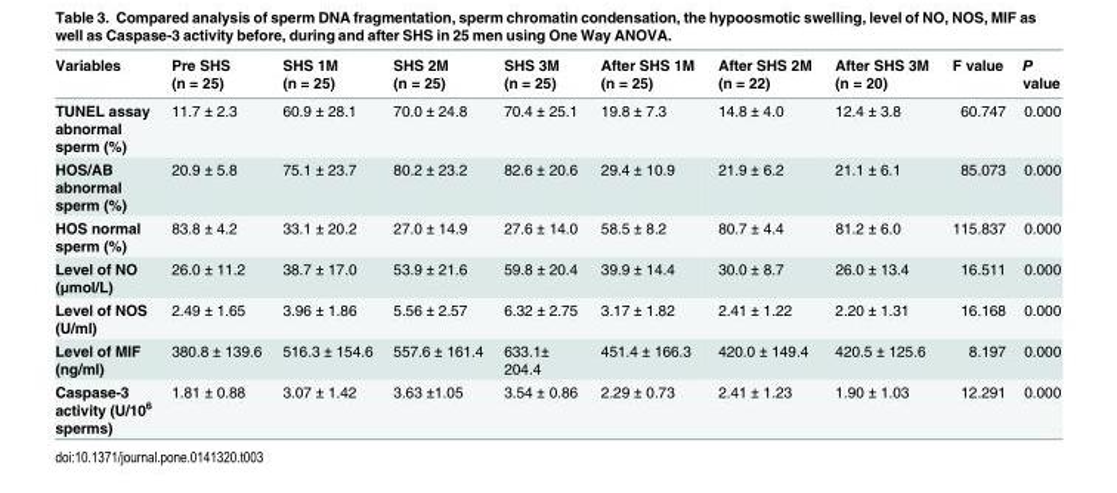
<table><thead><tr><td>Variables</td><td>Pre SHS (n = 25)</td><td>SHS 1M (n = 25)</td><td>SHS 2M (n = 25)</td><td>SHS 3M (n = 25)</td><td>After SHS 1M (n = 25)</td><td>After SHS 2M (n = 22)</td><td>After SHS 3M (n = 20)</td><td>F value</td><td>P value</td></tr></thead><tbody><tr><td>TUNEL assay abnormal sperm (%)</td><td>11.7 ± 2.3</td><td>60.9 ± 28.1</td><td>70.0 ± 24.8</td><td>70.4 ± 25.1</td><td>19.8 ± 7.3</td><td>14.8 ± 4.0</td><td>12.4 ± 3.8</td><td>60.747</td><td>0.000</td></tr><tr><td>HOS/AB abnormal sperm (%)</td><td>20.9 ± 5.8</td><td>75.1 ± 23.7</td><td>80.2 ± 23.2</td><td>82.6 ± 20.6</td><td>29.4 ± 10.9</td><td>21.9 ± 6.2</td><td>21.1 ± 6.1</td><td>85.073</td><td>0.000</td></tr><tr><td>HOS normal sperm (%)</td><td>83.8 ± 4.2</td><td>33.1 ± 20.2</td><td>27.0 ± 14.9</td><td>27.6 ± 14.0</td><td>58.5 ± 8.2</td><td>80.7 ± 4.4</td><td>81.2 ± 6.0</td><td>115.837</td><td>0.000</td></tr><tr><td>Level of NO (μmol/L)</td><td>26.0 ± 11.2</td><td>38.7 ± 17.0</td><td>53.9 ± 21.6</td><td>59.8 ± 20.4</td><td>39.9 ± 14.4</td><td>30.0 ± 8.7</td><td>26.0 ± 13.4</td><td>16.511</td><td>0.000</td></tr><tr><td>Level of NOS (U/ml)</td><td>2.49 ± 1.65</td><td>3.96 ± 1.86</td><td>5.56 ± 2.57</td><td>6.32 ± 2.75</td><td>3.17 ± 1.82</td><td>2.41 ± 1.22</td><td>2.20 ± 1.31</td><td>16.168</td><td>0.000</td></tr><tr><td>Level of MIF (ng/ml)</td><td>380.8 ± 139.6</td><td>516.3 ± 154.6</td><td>557.6 ± 161.4</td><td>633.1± 204.4</td><td>451.4 ± 166.3</td><td>420.0 ± 149.4</td><td>420.5 ± 125.6</td><td>8.197</td><td>0.000</td></tr><tr><td>Caspase-3 activity (U/10<sup>6</sup> sperms)</td><td>1.81 ± 0.88</td><td>3.07 ± 1.42</td><td>3.63 ±1.05</td><td>3.54 ± 0.86</td><td>2.29 ± 0.73</td><td>2.41 ± 1.23</td><td>1.90 ± 1.03</td><td>12.291</td><td>0.000</td></tr></tbody></table>